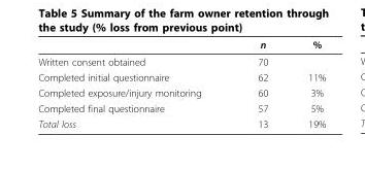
<table><thead><tr><td></td><td>n</td><td>%</td></tr></thead><tbody><tr><td>Written consent obtained</td><td>70</td><td></td></tr><tr><td>Completed initial questionnaire</td><td>62</td><td>11%</td></tr><tr><td>Completed exposure/injury monitoring</td><td>60</td><td>3%</td></tr><tr><td>Completed final questionnaire</td><td>57</td><td>5%</td></tr><tr><td>Total loss</td><td>13</td><td>19%</td></tr></tbody></table>